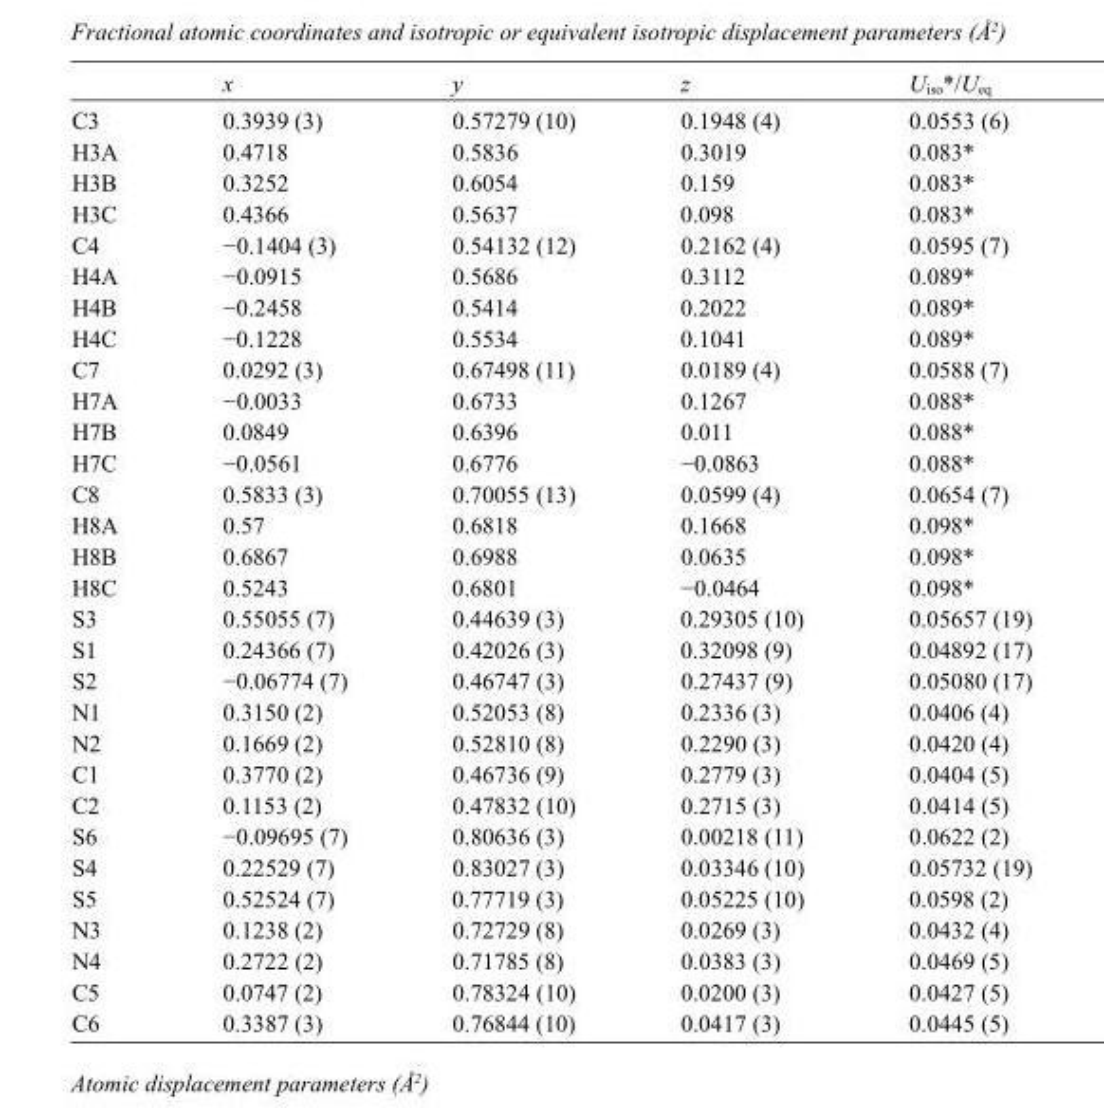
<table><thead><tr><td></td><td>x</td><td>y</td><td>z</td><td>U<sub>iso</sub>*/U<sub>eq</sub></td></tr></thead><tbody><tr><td>C3</td><td>0.3939 (3)</td><td>0.57279 (10)</td><td>0.1948 (4)</td><td>0.0553 (6)</td></tr><tr><td>H3A</td><td>0.4718</td><td>0.5836</td><td>0.3019</td><td>0.083*</td></tr><tr><td>H3B</td><td>0.3252</td><td>0.6054</td><td>0.159</td><td>0.083*</td></tr><tr><td>H3C</td><td>0.4366</td><td>0.5637</td><td>0.098</td><td>0.083*</td></tr><tr><td>C4</td><td>−0.1404 (3)</td><td>0.54132 (12)</td><td>0.2162 (4)</td><td>0.0595 (7)</td></tr><tr><td>H4A</td><td>−0.0915</td><td>0.5686</td><td>0.3112</td><td>0.089*</td></tr><tr><td>H4B</td><td>−0.2458</td><td>0.5414</td><td>0.2022</td><td>0.089*</td></tr><tr><td>H4C</td><td>−0.1228</td><td>0.5534</td><td>0.1041</td><td>0.089*</td></tr><tr><td>C7</td><td>0.0292 (3)</td><td>0.67498 (11)</td><td>0.0189 (4)</td><td>0.0588 (7)</td></tr><tr><td>H7A</td><td>−0.0033</td><td>0.6733</td><td>0.1267</td><td>0.088*</td></tr><tr><td>H7B</td><td>0.0849</td><td>0.6396</td><td>0.011</td><td>0.088*</td></tr><tr><td>H7C</td><td>−0.0561</td><td>0.6776</td><td>−0.0863</td><td>0.088*</td></tr><tr><td>C8</td><td>0.5833 (3)</td><td>0.70055 (13)</td><td>0.0599 (4)</td><td>0.0654 (7)</td></tr><tr><td>H8A</td><td>0.57</td><td>0.6818</td><td>0.1668</td><td>0.098*</td></tr><tr><td>H8B</td><td>0.6867</td><td>0.6988</td><td>0.0635</td><td>0.098*</td></tr><tr><td>H8C</td><td>0.5243</td><td>0.6801</td><td>−0.0464</td><td>0.098*</td></tr><tr><td>S3</td><td>0.55055 (7)</td><td>0.44639 (3)</td><td>0.29305 (10)</td><td>0.05657 (19)</td></tr><tr><td>S1</td><td>0.24366 (7)</td><td>0.42026 (3)</td><td>0.32098 (9)</td><td>0.04892 (17)</td></tr><tr><td>S2</td><td>−0.06774 (7)</td><td>0.46747 (3)</td><td>0.27437 (9)</td><td>0.05080 (17)</td></tr><tr><td>N1</td><td>0.3150 (2)</td><td>0.52053 (8)</td><td>0.2336 (3)</td><td>0.0406 (4)</td></tr><tr><td>N2</td><td>0.1669 (2)</td><td>0.52810 (8)</td><td>0.2290 (3)</td><td>0.0420 (4)</td></tr><tr><td>C1</td><td>0.3770 (2)</td><td>0.46736 (9)</td><td>0.2779 (3)</td><td>0.0404 (5)</td></tr><tr><td>C2</td><td>0.1153 (2)</td><td>0.47832 (10)</td><td>0.2715 (3)</td><td>0.0414 (5)</td></tr><tr><td>S6</td><td>−0.09695 (7)</td><td>0.80636 (3)</td><td>0.00218 (11)</td><td>0.0622 (2)</td></tr><tr><td>S4</td><td>0.22529 (7)</td><td>0.83027 (3)</td><td>0.03346 (10)</td><td>0.05732 (19)</td></tr><tr><td>S5</td><td>0.52524 (7)</td><td>0.77719 (3)</td><td>0.05225 (10)</td><td>0.0598 (2)</td></tr><tr><td>N3</td><td>0.1238 (2)</td><td>0.72729 (8)</td><td>0.0269 (3)</td><td>0.0432 (4)</td></tr><tr><td>N4</td><td>0.2722 (2)</td><td>0.71785 (8)</td><td>0.0383 (3)</td><td>0.0469 (5)</td></tr><tr><td>C5</td><td>0.0747 (2)</td><td>0.78324 (10)</td><td>0.0200 (3)</td><td>0.0427 (5)</td></tr><tr><td>C6</td><td>0.3387 (3)</td><td>0.76844 (10)</td><td>0.0417 (3)</td><td>0.0445 (5)</td></tr></tbody></table>